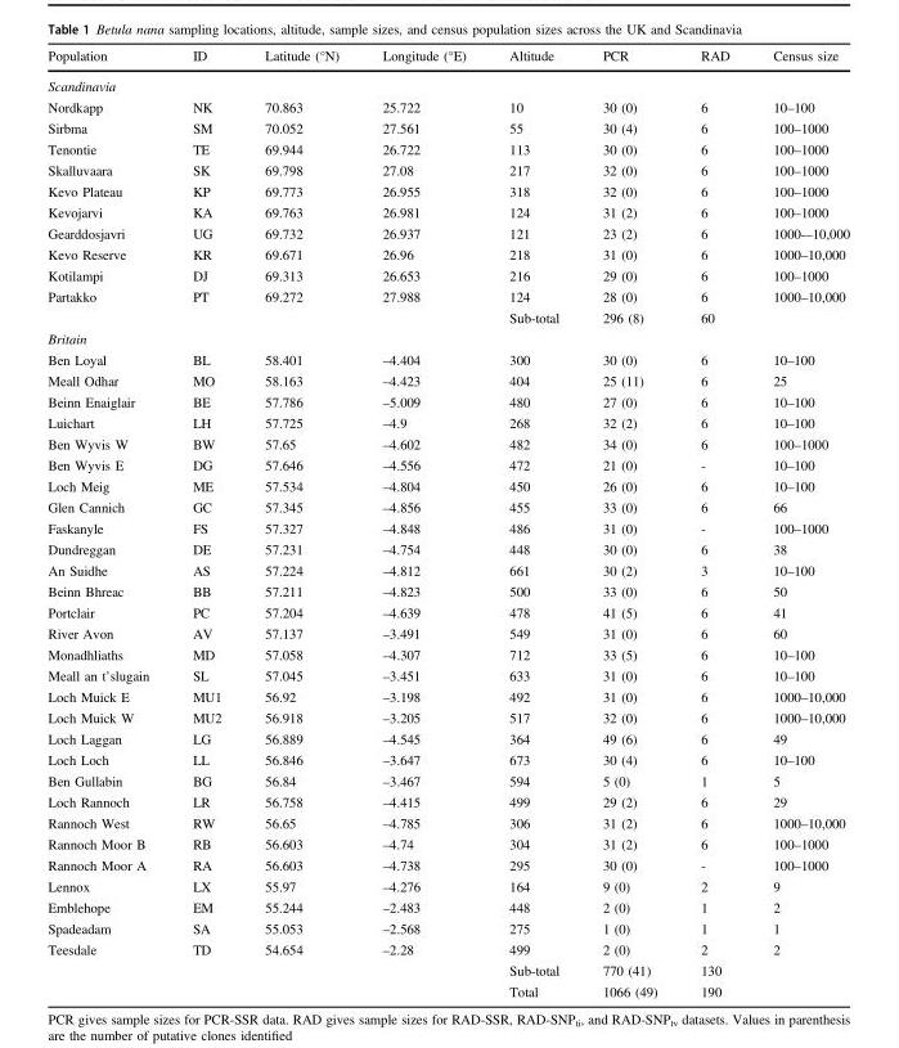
<table><thead><tr><td>Population</td><td>ID</td><td>Latitude (°N)</td><td>Longitude (°E)</td><td>Altitude</td><td>PCR</td><td>RAD</td><td>Census size</td></tr></thead><tbody><tr><td colspan="8">Scandinavia</td></tr><tr><td>Nordkapp</td><td>NK</td><td>70.863</td><td>25.722</td><td>10</td><td>30 (0)</td><td>6</td><td>10–100</td></tr><tr><td>Sirbma</td><td>SM</td><td>70.052</td><td>27.561</td><td>55</td><td>30 (4)</td><td>6</td><td>100–1000</td></tr><tr><td>Tenontie</td><td>TE</td><td>69.944</td><td>26.722</td><td>113</td><td>30 (0)</td><td>6</td><td>100–1000</td></tr><tr><td>Skalluvaara</td><td>SK</td><td>69.798</td><td>27.08</td><td>217</td><td>32 (0)</td><td>6</td><td>100–1000</td></tr><tr><td>Kevo Plateau</td><td>KP</td><td>69.773</td><td>26.955</td><td>318</td><td>32 (0)</td><td>6</td><td>100–1000</td></tr><tr><td>Kevojarvi</td><td>KA</td><td>69.763</td><td>26.981</td><td>124</td><td>31 (2)</td><td>6</td><td>100–1000</td></tr><tr><td>Gearddosjavri</td><td>UG</td><td>69.732</td><td>26.937</td><td>121</td><td>23 (2)</td><td>6</td><td>1000-–10,000</td></tr><tr><td>Kevo Reserve</td><td>KR</td><td>69.671</td><td>26.96</td><td>218</td><td>31 (0)</td><td>6</td><td>1000–10,000</td></tr><tr><td>Kotilampi</td><td>DJ</td><td>69.313</td><td>26.653</td><td>216</td><td>29 (0)</td><td>6</td><td>100–1000</td></tr><tr><td rowspan="2">Partakko</td><td>PT</td><td>69.272</td><td>27.988</td><td>124</td><td>28 (0)</td><td>6</td><td>1000–10,000</td></tr><tr><td></td><td></td><td></td><td>Sub-total</td><td>296 (8)</td><td>60</td><td></td></tr><tr><td colspan="8">Britain</td></tr><tr><td>Ben Loyal</td><td>BL</td><td>58.401</td><td>–4.404</td><td>300</td><td>30 (0)</td><td>6</td><td>10–100</td></tr><tr><td>Meall Odhar</td><td>MO</td><td>58.163</td><td>–4.423</td><td>404</td><td>25 (11)</td><td>6</td><td>25</td></tr><tr><td>Beinn Enaiglair</td><td>BE</td><td>57.786</td><td>–5.009</td><td>480</td><td>27 (0)</td><td>6</td><td>10–100</td></tr><tr><td>Luichart</td><td>LH</td><td>57.725</td><td>–4.9</td><td>268</td><td>32 (2)</td><td>6</td><td>10–100</td></tr><tr><td>Ben Wyvis W</td><td>BW</td><td>57.65</td><td>–4.602</td><td>482</td><td>34 (0)</td><td>6</td><td>100–1000</td></tr><tr><td>Ben Wyvis E</td><td>DG</td><td>57.646</td><td>–4.556</td><td>472</td><td>21 (0)</td><td>-</td><td>10–100</td></tr><tr><td>Loch Meig</td><td>ME</td><td>57.534</td><td>–4.804</td><td>450</td><td>26 (0)</td><td>6</td><td>10–100</td></tr><tr><td>Glen Cannich</td><td>GC</td><td>57.345</td><td>–4.856</td><td>455</td><td>33 (0)</td><td>6</td><td>66</td></tr><tr><td>Faskanyle</td><td>FS</td><td>57.327</td><td>–4.848</td><td>486</td><td>31 (0)</td><td>-</td><td>100–1000</td></tr><tr><td>Dundreggan</td><td>DE</td><td>57.231</td><td>–4.754</td><td>448</td><td>30 (0)</td><td>6</td><td>38</td></tr><tr><td>An Suidhe</td><td>AS</td><td>57.224</td><td>–4.812</td><td>661</td><td>30 (2)</td><td>3</td><td>10–100</td></tr><tr><td>Beinn Bhreac</td><td>BB</td><td>57.211</td><td>–4.823</td><td>500</td><td>33 (0)</td><td>6</td><td>50</td></tr><tr><td>Portclair</td><td>PC</td><td>57.204</td><td>–4.639</td><td>478</td><td>41 (5)</td><td>6</td><td>41</td></tr><tr><td>River Avon</td><td>AV</td><td>57.137</td><td>–3.491</td><td>549</td><td>31 (0)</td><td>6</td><td>60</td></tr><tr><td>Monadhliaths</td><td>MD</td><td>57.058</td><td>–4.307</td><td>712</td><td>33 (5)</td><td>6</td><td>10–100</td></tr><tr><td>Meall an t’slugain</td><td>SL</td><td>57.045</td><td>–3.451</td><td>633</td><td>31 (0)</td><td>6</td><td>10–100</td></tr><tr><td>Loch Muick E</td><td>MU1</td><td>56.92</td><td>–3.198</td><td>492</td><td>31 (0)</td><td>6</td><td>1000–10,000</td></tr><tr><td>Loch Muick W</td><td>MU2</td><td>56.918</td><td>–3.205</td><td>517</td><td>32 (0)</td><td>6</td><td>1000–10,000</td></tr><tr><td>Loch Laggan</td><td>LG</td><td>56.889</td><td>–4.545</td><td>364</td><td>49 (6)</td><td>6</td><td>49</td></tr><tr><td>Loch Loch</td><td>LL</td><td>56.846</td><td>–3.647</td><td>673</td><td>30 (4)</td><td>6</td><td>10–100</td></tr><tr><td>Ben Gullabin</td><td>BG</td><td>56.84</td><td>–3.467</td><td>594</td><td>5 (0)</td><td>1</td><td>5</td></tr><tr><td>Loch Rannoch</td><td>LR</td><td>56.758</td><td>–4.415</td><td>499</td><td>29 (2)</td><td>6</td><td>29</td></tr><tr><td>Rannoch West</td><td>RW</td><td>56.65</td><td>–4.785</td><td>306</td><td>31 (2)</td><td>6</td><td>1000–10,000</td></tr><tr><td>Rannoch Moor B</td><td>RB</td><td>56.603</td><td>–4.74</td><td>304</td><td>31 (2)</td><td>6</td><td>100–1000</td></tr><tr><td>Rannoch Moor A</td><td>RA</td><td>56.603</td><td>–4.738</td><td>295</td><td>30 (0)</td><td>-</td><td>100–1000</td></tr><tr><td>Lennox</td><td>LX</td><td>55.97</td><td>–4.276</td><td>164</td><td>9 (0)</td><td>2</td><td>9</td></tr><tr><td>Emblehope</td><td>EM</td><td>55.244</td><td>–2.483</td><td>448</td><td>2 (0)</td><td>1</td><td>2</td></tr><tr><td>Spadeadam</td><td>SA</td><td>55.053</td><td>–2.568</td><td>275</td><td>1 (0)</td><td>1</td><td>1</td></tr><tr><td rowspan="3">Teesdale</td><td>TD</td><td>54.654</td><td>–2.28</td><td>499</td><td>2 (0)</td><td>2</td><td>2</td></tr><tr><td></td><td></td><td></td><td>Sub-total</td><td>770 (41)</td><td>130</td><td></td></tr><tr><td></td><td></td><td></td><td>Total</td><td>1066 (49)</td><td>190</td><td></td></tr></tbody></table>